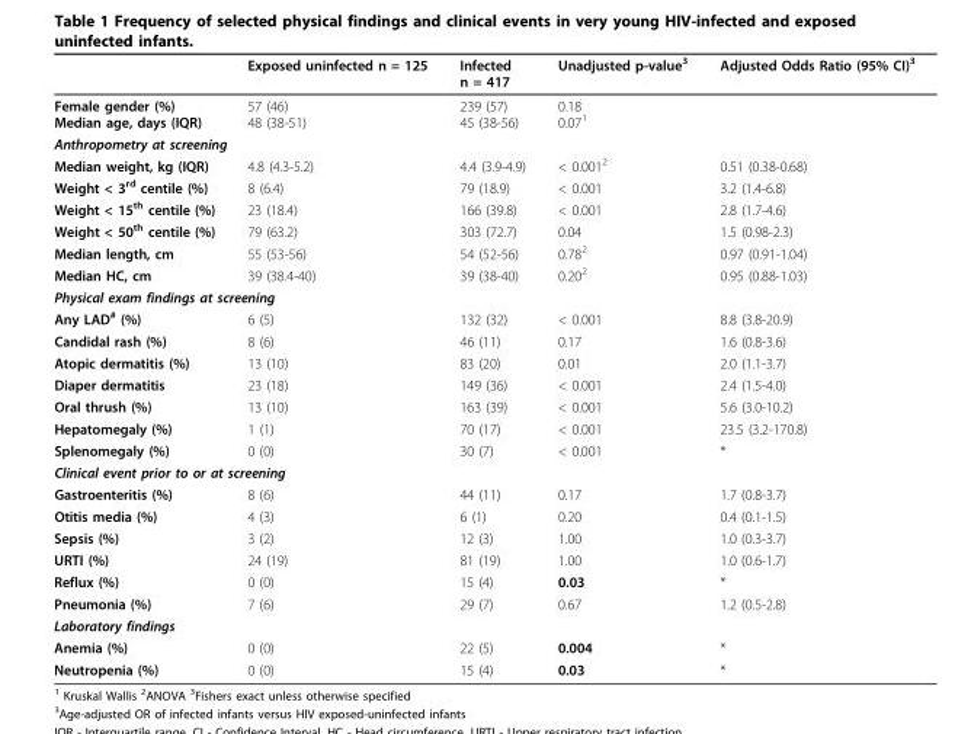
<table><thead><tr><td></td><td>Exposed uninfected n = 125</td><td>Infected n = 417</td><td>Unadjusted p-value<sup>3</sup></td><td>Adjusted Odds Ratio (95% CI)<sup>3</sup></td></tr></thead><tbody><tr><td>Female gender (%) Median age, days (IQR)</td><td>57 (46) 48 (38-51)</td><td>239 (57) 45 (38-56)</td><td>0.18 0.07<sup>1</sup></td><td></td></tr><tr><td colspan="5">Anthropometry at screening</td></tr><tr><td>Median weight, kg (IQR)</td><td>4.8 (4.3-5.2)</td><td>4.4 (3.9-4.9)</td><td>&lt; 0.001<sup>2</sup></td><td>0.51 (0.38-0.68)</td></tr><tr><td>Weight &lt; 3<sup>rd</sup> centile (%)</td><td>8 (6.4)</td><td>79 (18.9)</td><td>&lt; 0.001</td><td>3.2 (1.4-6.8)</td></tr><tr><td>Weight &lt; 15<sup>th</sup> centile (%)</td><td>23 (18.4)</td><td>166 (39.8)</td><td>&lt; 0.001</td><td>2.8 (1.7-4.6)</td></tr><tr><td>Weight &lt; 50<sup>th</sup> centile (%)</td><td>79 (63.2)</td><td>303 (72.7)</td><td>0.04</td><td>1.5 (0.98-2.3)</td></tr><tr><td>Median length, cm</td><td>55 (53-56)</td><td>54 (52-56)</td><td>0.78<sup>2</sup></td><td>0.97 (0.91-1.04)</td></tr><tr><td>Median HC, cm</td><td>39 (38.4-40)</td><td>39 (38-40)</td><td>0.20<sup>2</sup></td><td>0.95 (0.88-1.03)</td></tr><tr><td colspan="5">Physical exam findings at screening</td></tr><tr><td>Any LAD<sup>#</sup> (%)</td><td>6 (5)</td><td>132 (32)</td><td>&lt; 0.001</td><td>8.8 (3.8-20.9)</td></tr><tr><td>Candidal rash (%)</td><td>8 (6)</td><td>46 (11)</td><td>0.17</td><td>1.6 (0.8-3.6)</td></tr><tr><td>Atopic dermatitis (%)</td><td>13 (10)</td><td>83 (20)</td><td>0.01</td><td>2.0 (1.1-3.7)</td></tr><tr><td>Diaper dermatitis</td><td>23 (18)</td><td>149 (36)</td><td>&lt; 0.001</td><td>2.4 (1.5-4.0)</td></tr><tr><td>Oral thrush (%)</td><td>13 (10)</td><td>163 (39)</td><td>&lt; 0.001</td><td>5.6 (3.0-10.2)</td></tr><tr><td>Hepatomegaly (%)</td><td>1 (1)</td><td>70 (17)</td><td>&lt; 0.001</td><td>23.5 (3.2-170.8)</td></tr><tr><td>Splenomegaly (%)</td><td>0 (0)</td><td>30 (7)</td><td>&lt; 0.001</td><td>*</td></tr><tr><td colspan="5">Clinical event prior to or at screening</td></tr><tr><td>Gastroenteritis (%)</td><td>8 (6)</td><td>44 (11)</td><td>0.17</td><td>1.7 (0.8-3.7)</td></tr><tr><td>Otitis media (%)</td><td>4 (3)</td><td>6 (1)</td><td>0.20</td><td>0.4 (0.1-1.5)</td></tr><tr><td>Sepsis (%)</td><td>3 (2)</td><td>12 (3)</td><td>1.00</td><td>1.0 (0.3-3.7)</td></tr><tr><td>URTI (%)</td><td>24 (19)</td><td>81 (19)</td><td>1.00</td><td>1.0 (0.6-1.7)</td></tr><tr><td>Reflux (%)</td><td>0 (0)</td><td>15 (4)</td><td>0.03</td><td>*</td></tr><tr><td>Pneumonia (%)</td><td>7 (6)</td><td>29 (7)</td><td>0.67</td><td>1.2 (0.5-2.8)</td></tr><tr><td colspan="5">Laboratory findings</td></tr><tr><td>Anemia (%)</td><td>0 (0)</td><td>22 (5)</td><td>0.004</td><td>*</td></tr><tr><td>Neutropenia (%)</td><td>0 (0)</td><td>15 (4)</td><td>0.03</td><td>*</td></tr></tbody></table>